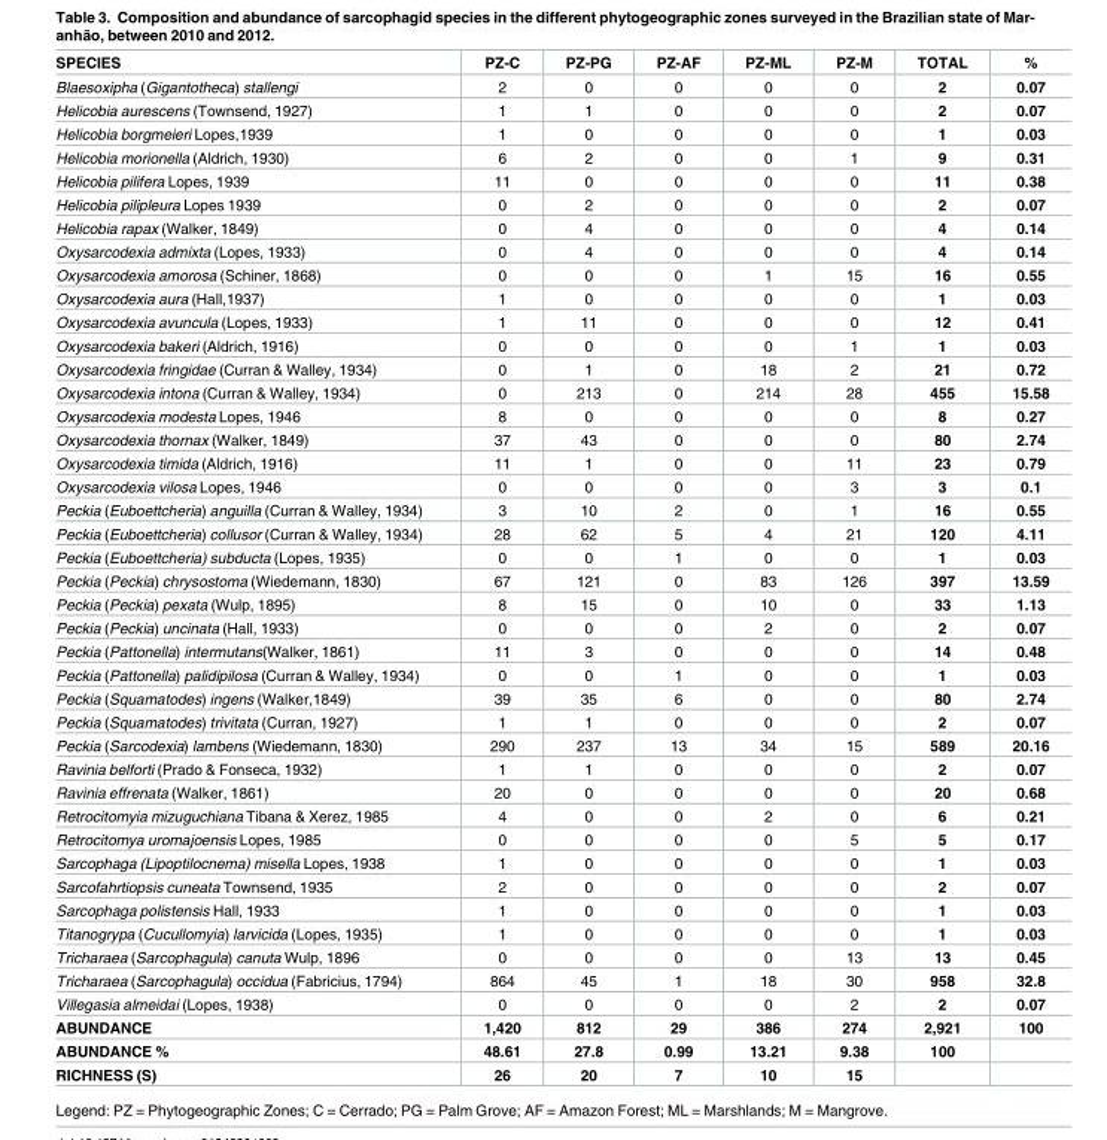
<table><thead><tr><td>SPECIES</td><td>PZ-C</td><td>PZ-PG</td><td>PZ-AF</td><td>PZ-ML</td><td>PZ-M</td><td>TOTAL</td><td>%</td></tr></thead><tbody><tr><td>Blaesoxipha (Gigantotheca) stallengi</td><td>2</td><td>0</td><td>0</td><td>0</td><td>0</td><td>2</td><td>0.07</td></tr><tr><td>Helicobia aurescens (Townsend, 1927)</td><td>1</td><td>1</td><td>0</td><td>0</td><td>0</td><td>2</td><td>0.07</td></tr><tr><td>Helicobia borgmeieri Lopes,1939</td><td>1</td><td>0</td><td>0</td><td>0</td><td>0</td><td>1</td><td>0.03</td></tr><tr><td>Helicobia morionella (Aldrich, 1930)</td><td>6</td><td>2</td><td>0</td><td>0</td><td>1</td><td>9</td><td>0.31</td></tr><tr><td>Helicobia pilifera Lopes, 1939</td><td>11</td><td>0</td><td>0</td><td>0</td><td>0</td><td>11</td><td>0.38</td></tr><tr><td>Helicobia pilipleura Lopes 1939</td><td>0</td><td>2</td><td>0</td><td>0</td><td>0</td><td>2</td><td>0.07</td></tr><tr><td>Helicobia rapax (Walker, 1849)</td><td>0</td><td>4</td><td>0</td><td>0</td><td>0</td><td>4</td><td>0.14</td></tr><tr><td>Oxysarcodexia admixta (Lopes, 1933)</td><td>0</td><td>4</td><td>0</td><td>0</td><td>0</td><td>4</td><td>0.14</td></tr><tr><td>Oxysarcodexia amorosa (Schiner, 1868)</td><td>0</td><td>0</td><td>0</td><td>1</td><td>15</td><td>16</td><td>0.55</td></tr><tr><td>Oxysarcodexia aura (Hall,1937)</td><td>1</td><td>0</td><td>0</td><td>0</td><td>0</td><td>1</td><td>0.03</td></tr><tr><td>Oxysarcodexia avuncula (Lopes, 1933)</td><td>1</td><td>11</td><td>0</td><td>0</td><td>0</td><td>12</td><td>0.41</td></tr><tr><td>Oxysarcodexia bakeri (Aldrich, 1916)</td><td>0</td><td>0</td><td>0</td><td>0</td><td>1</td><td>1</td><td>0.03</td></tr><tr><td>Oxysarcodexia fringidae (Curran &amp; Walley, 1934)</td><td>0</td><td>1</td><td>0</td><td>18</td><td>2</td><td>21</td><td>0.72</td></tr><tr><td>Oxysarcodexia intona (Curran &amp; Walley, 1934)</td><td>0</td><td>213</td><td>0</td><td>214</td><td>28</td><td>455</td><td>15.58</td></tr><tr><td>Oxysarcodexia modesta Lopes, 1946</td><td>8</td><td>0</td><td>0</td><td>0</td><td>0</td><td>8</td><td>0.27</td></tr><tr><td>Oxysarcodexia thornax (Walker, 1849)</td><td>37</td><td>43</td><td>0</td><td>0</td><td>0</td><td>80</td><td>2.74</td></tr><tr><td>Oxysarcodexia timida (Aldrich, 1916)</td><td>11</td><td>1</td><td>0</td><td>0</td><td>11</td><td>23</td><td>0.79</td></tr><tr><td>Oxysarcodexia vilosa Lopes, 1946</td><td>0</td><td>0</td><td>0</td><td>0</td><td>3</td><td>3</td><td>0.1</td></tr><tr><td>Peckia (Euboettcheria) anguilla (Curran &amp; Walley, 1934)</td><td>3</td><td>10</td><td>2</td><td>0</td><td>1</td><td>16</td><td>0.55</td></tr><tr><td>Peckia (Euboettcheria) collusor (Curran &amp; Walley, 1934)</td><td>28</td><td>62</td><td>5</td><td>4</td><td>21</td><td>120</td><td>4.11</td></tr><tr><td>Peckia (Euboettcheria) subducta (Lopes, 1935)</td><td>0</td><td>0</td><td>1</td><td>0</td><td>0</td><td>1</td><td>0.03</td></tr><tr><td>Peckia (Peckia) chrysostoma (Wiedemann, 1830)</td><td>67</td><td>121</td><td>0</td><td>83</td><td>126</td><td>397</td><td>13.59</td></tr><tr><td>Peckia (Peckia) pexata (Wulp, 1895)</td><td>8</td><td>15</td><td>0</td><td>10</td><td>0</td><td>33</td><td>1.13</td></tr><tr><td>Peckia (Peckia) uncinata (Hall, 1933)</td><td>0</td><td>0</td><td>0</td><td>2</td><td>0</td><td>2</td><td>0.07</td></tr><tr><td>Peckia (Pattonella) intermutans(Walker, 1861)</td><td>11</td><td>3</td><td>0</td><td>0</td><td>0</td><td>14</td><td>0.48</td></tr><tr><td>Peckia (Pattonella) palidipilosa (Curran &amp; Walley, 1934)</td><td>0</td><td>0</td><td>1</td><td>0</td><td>0</td><td>1</td><td>0.03</td></tr><tr><td>Peckia (Squamatodes) ingens (Walker,1849)</td><td>39</td><td>35</td><td>6</td><td>0</td><td>0</td><td>80</td><td>2.74</td></tr><tr><td>Peckia (Squamatodes) trivitata (Curran, 1927)</td><td>1</td><td>1</td><td>0</td><td>0</td><td>0</td><td>2</td><td>0.07</td></tr><tr><td>Peckia (Sarcodexia) lambens (Wiedemann, 1830)</td><td>290</td><td>237</td><td>13</td><td>34</td><td>15</td><td>589</td><td>20.16</td></tr><tr><td>Ravinia belforti (Prado &amp; Fonseca, 1932)</td><td>1</td><td>1</td><td>0</td><td>0</td><td>0</td><td>2</td><td>0.07</td></tr><tr><td>Ravinia effrenata (Walker, 1861)</td><td>20</td><td>0</td><td>0</td><td>0</td><td>0</td><td>20</td><td>0.68</td></tr><tr><td>Retrocitomyia mizuguchiana Tibana &amp; Xerez, 1985</td><td>4</td><td>0</td><td>0</td><td>2</td><td>0</td><td>6</td><td>0.21</td></tr><tr><td>Retrocitomya uromajoensis Lopes, 1985</td><td>0</td><td>0</td><td>0</td><td>0</td><td>5</td><td>5</td><td>0.17</td></tr><tr><td>Sarcophaga (Lipoptilocnema) misella Lopes, 1938</td><td>1</td><td>0</td><td>0</td><td>0</td><td>0</td><td>1</td><td>0.03</td></tr><tr><td>Sarcofahrtiopsis cuneata Townsend, 1935</td><td>2</td><td>0</td><td>0</td><td>0</td><td>0</td><td>2</td><td>0.07</td></tr><tr><td>Sarcophaga polistensis Hall, 1933</td><td>1</td><td>0</td><td>0</td><td>0</td><td>0</td><td>1</td><td>0.03</td></tr><tr><td>Titanogrypa (Cucullomyia) larvicida (Lopes, 1935)</td><td>1</td><td>0</td><td>0</td><td>0</td><td>0</td><td>1</td><td>0.03</td></tr><tr><td>Tricharaea (Sarcophagula) canuta Wulp, 1896</td><td>0</td><td>0</td><td>0</td><td>0</td><td>13</td><td>13</td><td>0.45</td></tr><tr><td>Tricharaea (Sarcophagula) occidua (Fabricius, 1794)</td><td>864</td><td>45</td><td>1</td><td>18</td><td>30</td><td>958</td><td>32.8</td></tr><tr><td>Villegasia almeidai (Lopes, 1938)</td><td>0</td><td>0</td><td>0</td><td>0</td><td>2</td><td>2</td><td>0.07</td></tr><tr><td>ABUNDANCE</td><td>1,420</td><td>812</td><td>29</td><td>386</td><td>274</td><td>2,921</td><td>100</td></tr><tr><td>ABUNDANCE %</td><td>48.61</td><td>27.8</td><td>0.99</td><td>13.21</td><td>9.38</td><td>100</td><td></td></tr><tr><td>RICHNESS (S)</td><td>26</td><td>20</td><td>7</td><td>10</td><td>15</td><td></td><td></td></tr></tbody></table>